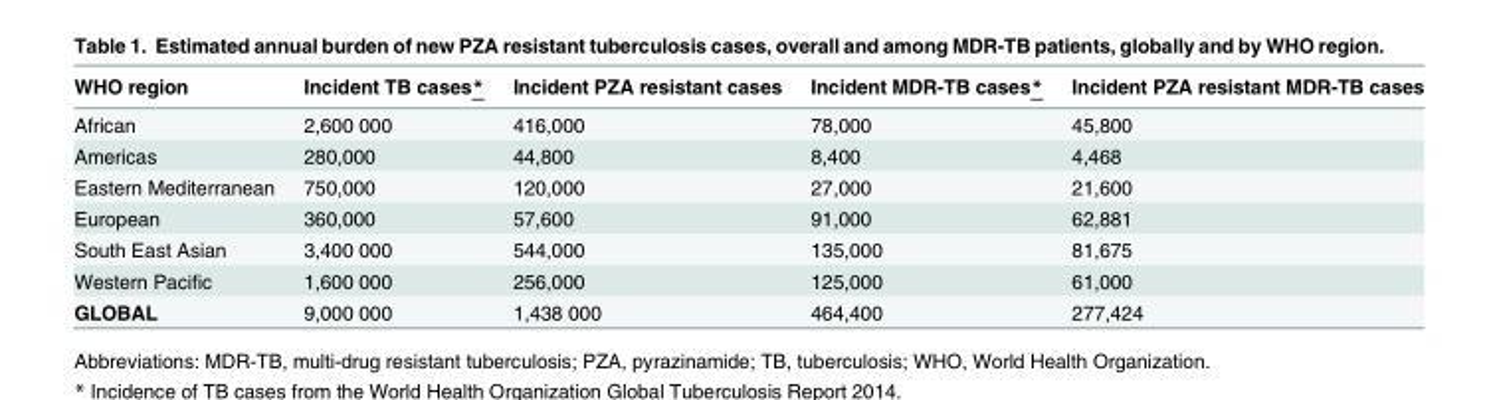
<table><thead><tr><td>WHO region</td><td>Incident TB cases*</td><td>Incident PZA resistant cases</td><td>Incident MDR-TB cases*</td><td>Incident PZA resistant MDR-TB cases</td></tr></thead><tbody><tr><td>African</td><td>2,600 000</td><td>416,000</td><td>78,000</td><td>45,800</td></tr><tr><td>Americas</td><td>280,000</td><td>44,800</td><td>8,400</td><td>4,468</td></tr><tr><td>Eastern Mediterranean</td><td>750,000</td><td>120,000</td><td>27,000</td><td>21,600</td></tr><tr><td>European</td><td>360,000</td><td>57,600</td><td>91,000</td><td>62,881</td></tr><tr><td>South East Asian</td><td>3,400 000</td><td>544,000</td><td>135,000</td><td>81,675</td></tr><tr><td>Western Pacific</td><td>1,600 000</td><td>256,000</td><td>125,000</td><td>61,000</td></tr><tr><td>GLOBAL</td><td>9,000 000</td><td>1,438 000</td><td>464,400</td><td>277,424</td></tr></tbody></table>